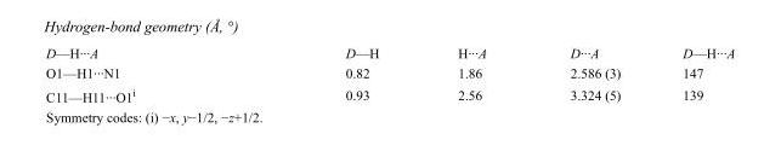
<table><tbody><tr><td>D—H···A</td><td>D—H</td><td>H···A</td><td>D···A</td><td>D—H···A</td></tr><tr><td>O1—H1···N1</td><td>0.82</td><td>1.86</td><td>2.586 (3)</td><td>147</td></tr><tr><td>C11—H11···O1<sup>i</sup></td><td>0.93</td><td>2.56</td><td>3.324 (5)</td><td>139</td></tr></tbody></table>